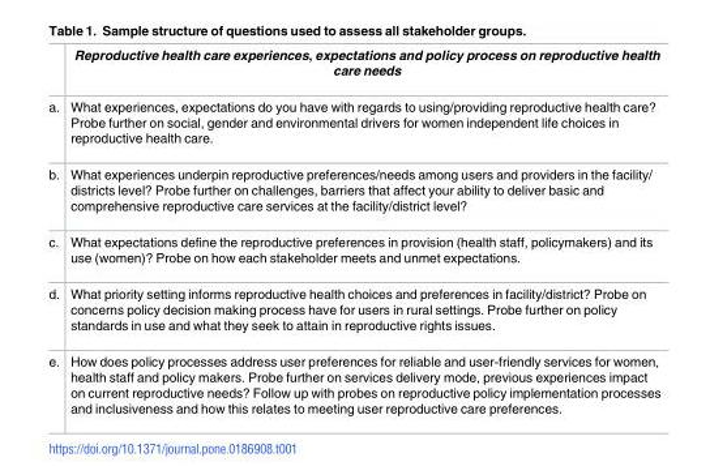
<table><thead><tr><td></td><td>Reproductive health care experiences, expectations and policy process on reproductive health care needs</td></tr></thead><tbody><tr><td>a.</td><td>What experiences, expectations do you have with regards to using/providing reproductive health care? Probe further on social, gender and environmental drivers for women independent life choices in reproductive health care.</td></tr><tr><td>b.</td><td>What experiences underpin reproductive preferences/needs among users and providers in the facility/ districts level? Probe further on challenges, barriers that affect your ability to deliver basic and comprehensive reproductive care services at the facility/district level?</td></tr><tr><td>c.</td><td>What expectations define the reproductive preferences in provision (health staff, policymakers) and its use (women)? Probe on how each stakeholder meets and unmet expectations.</td></tr><tr><td>d.</td><td>What priority setting informs reproductive health choices and preferences in facility/district? Probe on concerns policy decision making process have for users in rural settings. Probe further on policy standards in use and what they seek to attain in reproductive rights issues.</td></tr><tr><td>e.</td><td>How does policy processes address user preferences for reliable and user-friendly services for women, health staff and policy makers. Probe further on services delivery mode, previous experiences impact on current reproductive needs? Follow up with probes on reproductive policy implementation processes and inclusiveness and how this relates to meeting user reproductive care preferences.</td></tr></tbody></table>